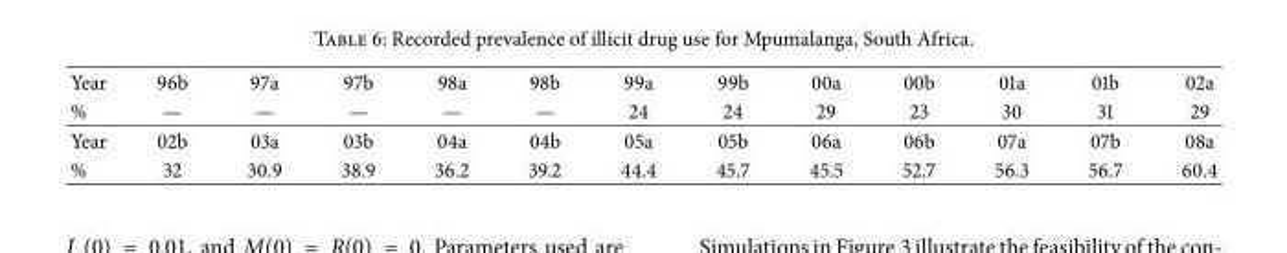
<table><tbody><tr><td>Year</td><td>96b</td><td>97a</td><td>97b</td><td>98a</td><td>98b</td><td>99a</td><td>99b</td><td>00a</td><td>00b</td><td>01a</td><td>01b</td><td>02a</td></tr><tr><td>%</td><td>—</td><td>—</td><td>—</td><td>—</td><td>—</td><td>24</td><td>24</td><td>29</td><td>23</td><td>30</td><td>31</td><td>29</td></tr><tr><td>Year</td><td>02b</td><td>03a</td><td>03b</td><td>04a</td><td>04b</td><td>05a</td><td>05b</td><td>06a</td><td>06b</td><td>07a</td><td>07b</td><td>08a</td></tr><tr><td>%</td><td>32</td><td>30.9</td><td>38.9</td><td>36.2</td><td>39.2</td><td>44.4</td><td>45.7</td><td>45.5</td><td>52.7</td><td>56.3</td><td>56.7</td><td>60.4</td></tr></tbody></table>